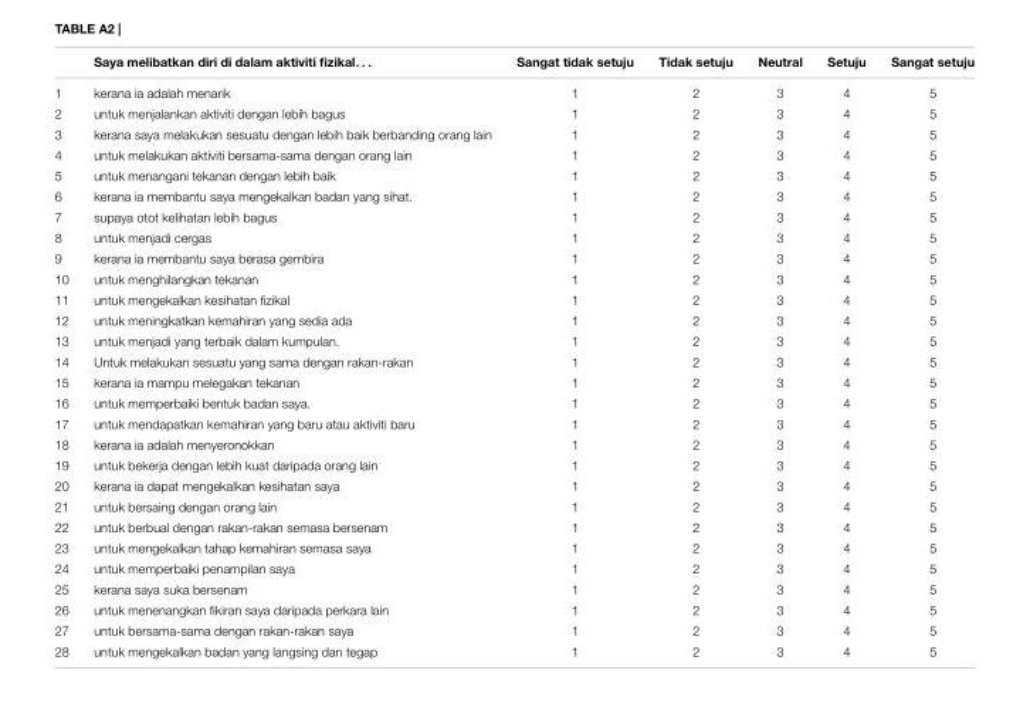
<table><thead><tr><td></td><td>Saya melibatkan diri di dalam aktiviti fizikal. . .</td><td>Sangat tidak setuju</td><td>Tidak setuju</td><td>Neutral</td><td>Setuju</td><td>Sangat setuju</td></tr></thead><tbody><tr><td>1</td><td>kerana ia adalah menarik</td><td>1</td><td>2</td><td>3</td><td>4</td><td>5</td></tr><tr><td>2</td><td>untuk menjalankan aktiviti dengan lebih bagus</td><td>1</td><td>2</td><td>3</td><td>4</td><td>5</td></tr><tr><td>3</td><td>kerana saya melakukan sesuatu dengan lebih baik berbanding orang lain</td><td>1</td><td>2</td><td>3</td><td>4</td><td>5</td></tr><tr><td>4</td><td>untuk melakukan aktiviti bersama-sama dengan orang lain</td><td>1</td><td>2</td><td>3</td><td>4</td><td>5</td></tr><tr><td>5</td><td>untuk menangani tekanan dengan lebih baik</td><td>1</td><td>2</td><td>3</td><td>4</td><td>5</td></tr><tr><td>6</td><td>kerana ia membantu saya mengekalkan badan yang sihat.</td><td>1</td><td>2</td><td>3</td><td>4</td><td>5</td></tr><tr><td>7</td><td>supaya otot kelihatan lebih bagus</td><td>1</td><td>2</td><td>3</td><td>4</td><td>5</td></tr><tr><td>8</td><td>untuk menjadi cergas</td><td>1</td><td>2</td><td>3</td><td>4</td><td>5</td></tr><tr><td>9</td><td>kerana ia membantu saya berasa gembira</td><td>1</td><td>2</td><td>3</td><td>4</td><td>5</td></tr><tr><td>10</td><td>untuk menghilangkan tekanan</td><td>1</td><td>2</td><td>3</td><td>4</td><td>5</td></tr><tr><td>11</td><td>untuk mengekalkan kesihatan fizikal</td><td>1</td><td>2</td><td>3</td><td>4</td><td>5</td></tr><tr><td>12</td><td>untuk meningkatkan kemahiran yang sedia ada</td><td>1</td><td>2</td><td>3</td><td>4</td><td>5</td></tr><tr><td>13</td><td>untuk menjadi yang terbaik dalam kumpulan.</td><td>1</td><td>2</td><td>3</td><td>4</td><td>5</td></tr><tr><td>14</td><td>Untuk melakukan sesuatu yang sama dengan rakan-rakan</td><td>1</td><td>2</td><td>3</td><td>4</td><td>5</td></tr><tr><td>15</td><td>kerana ia mampu melegakan tekanan</td><td>1</td><td>2</td><td>3</td><td>4</td><td>5</td></tr><tr><td>16</td><td>untuk memperbaiki bentuk badan saya.</td><td>1</td><td>2</td><td>3</td><td>4</td><td>5</td></tr><tr><td>17</td><td>untuk mendapatkan kemahiran yang baru atau aktiviti baru</td><td>1</td><td>2</td><td>3</td><td>4</td><td>5</td></tr><tr><td>18</td><td>kerana ia adalah menyeronokkan</td><td>1</td><td>2</td><td>3</td><td>4</td><td>5</td></tr><tr><td>19</td><td>untuk bekerja dengan lebih kuat daripada orang lain</td><td>1</td><td>2</td><td>3</td><td>4</td><td>5</td></tr><tr><td>20</td><td>kerana ia dapat mengekalkan kesihatan saya</td><td>1</td><td>2</td><td>3</td><td>4</td><td>5</td></tr><tr><td>21</td><td>untuk bersaing dengan orang lain</td><td>1</td><td>2</td><td>3</td><td>4</td><td>5</td></tr><tr><td>22</td><td>untuk berbual dengan rakan-rakan semasa bersenam</td><td>1</td><td>2</td><td>3</td><td>4</td><td>5</td></tr><tr><td>23</td><td>untuk mengekalkan tahap kemahiran semasa saya</td><td>1</td><td>2</td><td>3</td><td>4</td><td>5</td></tr><tr><td>24</td><td>untuk memperbaiki penampilan saya</td><td>1</td><td>2</td><td>3</td><td>4</td><td>5</td></tr><tr><td>25</td><td>kerana saya suka bersenam</td><td>1</td><td>2</td><td>3</td><td>4</td><td>5</td></tr><tr><td>26</td><td>untuk menenangkan fikiran saya daripada perkara lain</td><td>1</td><td>2</td><td>3</td><td>4</td><td>5</td></tr><tr><td>27</td><td>untuk bersama-sama dengan rakan-rakan saya</td><td>1</td><td>2</td><td>3</td><td>4</td><td>5</td></tr><tr><td>28</td><td>untuk mengekalkan badan yang langsing dan tegap</td><td>1</td><td>2</td><td>3</td><td>4</td><td>5</td></tr></tbody></table>